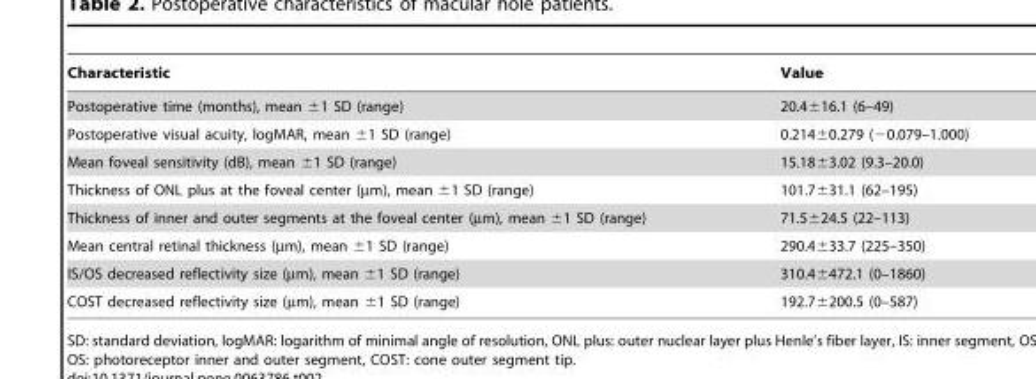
<table><thead><tr><td>Characteristic</td><td>Value</td></tr></thead><tbody><tr><td>Postoperative time (months), mean ±1 SD (range)</td><td>20.4±16.1 (6–49)</td></tr><tr><td>Postoperative visual acuity, logMAR, mean ±1 SD (range)</td><td>0.214±0.279 (−0.079–1.000)</td></tr><tr><td>Mean foveal sensitivity (dB), mean ±1 SD (range)</td><td>15.18±3.02 (9.3–20.0)</td></tr><tr><td>Thickness of ONL plus at the foveal center (µm), mean ±1 SD (range)</td><td>101.7±31.1 (62–195)</td></tr><tr><td>Thickness of inner and outer segments at the foveal center (µm), mean ±1 SD (range)</td><td>71.5±24.5 (22–113)</td></tr><tr><td>Mean central retinal thickness (µm), mean ±1 SD (range)</td><td>290.4±33.7 (225–350)</td></tr><tr><td>IS/OS decreased reflectivity size (µm), mean ±1 SD (range)</td><td>310.4±472.1 (0–1860)</td></tr><tr><td>COST decreased reflectivity size (µm), mean ±1 SD (range)</td><td>192.7±200.5 (0–587)</td></tr></tbody></table>